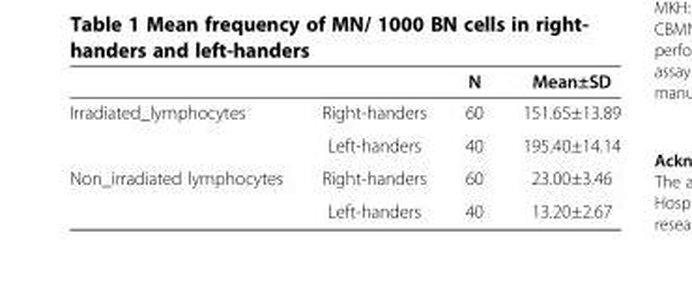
<table><thead><tr><td></td><td></td><td>N</td><td>Mean±SD</td></tr></thead><tbody><tr><td rowspan="2">Irradiated_lymphocytes</td><td>Right-handers</td><td>60</td><td>151.65±13.89</td></tr><tr><td>Left-handers</td><td>40</td><td>195.40±14.14</td></tr><tr><td rowspan="2">Non_irradiated lymphocytes</td><td>Right-handers</td><td>60</td><td>23.00±3.46</td></tr><tr><td>Left-handers</td><td>40</td><td>13.20±2.67</td></tr></tbody></table>